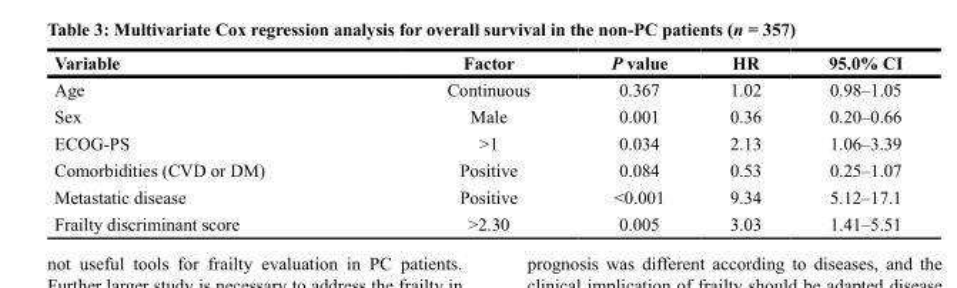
<table><thead><tr><td>Variable</td><td>Factor</td><td>P value</td><td>HR</td><td>95.0% CI</td></tr></thead><tbody><tr><td>Age</td><td>Continuous</td><td>0.367</td><td>1.02</td><td>0.98–1.05</td></tr><tr><td>Sex</td><td>Male</td><td>0.001</td><td>0.36</td><td>0.20–0.66</td></tr><tr><td>ECOG-PS</td><td>&gt;1</td><td>0.034</td><td>2.13</td><td>1.06–3.39</td></tr><tr><td>Comorbidities (CVD or DM)</td><td>Positive</td><td>0.084</td><td>0.53</td><td>0.25–1.07</td></tr><tr><td>Metastatic disease</td><td>Positive</td><td>&lt;0.001</td><td>9.34</td><td>5.12–17.1</td></tr><tr><td>Frailty discriminant score</td><td>&gt;2.30</td><td>0.005</td><td>3.03</td><td>1.41–5.51</td></tr></tbody></table>